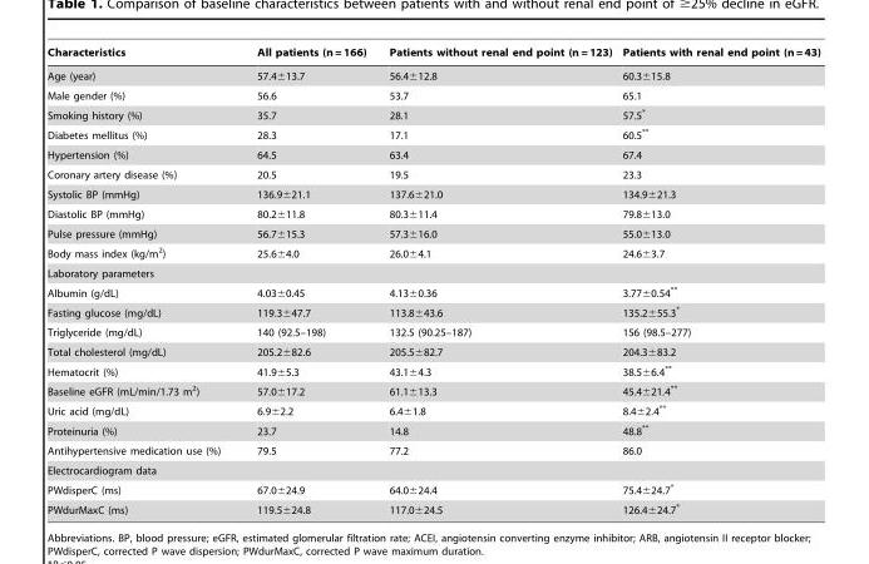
<table><thead><tr><td>Characteristics</td><td>All patients (n = 166)</td><td>Patients without renal end point (n = 123)</td><td>Patients with renal end point (n = 43)</td></tr></thead><tbody><tr><td>Age (year)</td><td>57.4±13.7</td><td>56.4±12.8</td><td>60.3±15.8</td></tr><tr><td>Male gender (%)</td><td>56.6</td><td>53.7</td><td>65.1</td></tr><tr><td>Smoking history (%)</td><td>35.7</td><td>28.1</td><td>57.5*</td></tr><tr><td>Diabetes mellitus (%)</td><td>28.3</td><td>17.1</td><td>60.5**</td></tr><tr><td>Hypertension (%)</td><td>64.5</td><td>63.4</td><td>67.4</td></tr><tr><td>Coronary artery disease (%)</td><td>20.5</td><td>19.5</td><td>23.3</td></tr><tr><td>Systolic BP (mmHg)</td><td>136.9±21.1</td><td>137.6±21.0</td><td>134.9±21.3</td></tr><tr><td>Diastolic BP (mmHg)</td><td>80.2±11.8</td><td>80.3±11.4</td><td>79.8±13.0</td></tr><tr><td>Pulse pressure (mmHg)</td><td>56.7±15.3</td><td>57.3±16.0</td><td>55.0±13.0</td></tr><tr><td>Body mass index (kg/m<sup>2</sup>)</td><td>25.6±4.0</td><td>26.0±4.1</td><td>24.6±3.7</td></tr><tr><td colspan="4">Laboratory parameters</td></tr><tr><td>Albumin (g/dL)</td><td>4.03±0.45</td><td>4.13±0.36</td><td>3.77±0.54**</td></tr><tr><td>Fasting glucose (mg/dL)</td><td>119.3±47.7</td><td>113.8±43.6</td><td>135.2±55.3*</td></tr><tr><td>Triglyceride (mg/dL)</td><td>140 (92.5–198)</td><td>132.5 (90.25–187)</td><td>156 (98.5–277)</td></tr><tr><td>Total cholesterol (mg/dL)</td><td>205.2±82.6</td><td>205.5±82.7</td><td>204.3±83.2</td></tr><tr><td>Hematocrit (%)</td><td>41.9±5.3</td><td>43.1±4.3</td><td>38.5±6.4**</td></tr><tr><td>Baseline eGFR (mL/min/1.73 m<sup>2</sup>)</td><td>57.0±17.2</td><td>61.1±13.3</td><td>45.4±21.4**</td></tr><tr><td>Uric acid (mg/dL)</td><td>6.9±2.2</td><td>6.4±1.8</td><td>8.4±2.4**</td></tr><tr><td>Proteinuria (%)</td><td>23.7</td><td>14.8</td><td>48.8**</td></tr><tr><td>Antihypertensive medication use (%)</td><td>79.5</td><td>77.2</td><td>86.0</td></tr><tr><td colspan="4">Electrocardiogram data</td></tr><tr><td>PWdisperC (ms)</td><td>67.0±24.9</td><td>64.0±24.4</td><td>75.4±24.7*</td></tr><tr><td>PWdurMaxC (ms)</td><td>119.5±24.8</td><td>117.0±24.5</td><td>126.4±24.7*</td></tr></tbody></table>